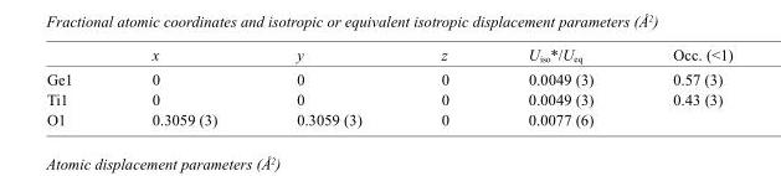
<table><thead><tr><td></td><td>x</td><td>y</td><td>z</td><td>U<sub>iso</sub>*/U<sub>eq</sub></td><td>Occ. (&lt;1)</td></tr></thead><tbody><tr><td>Ge1</td><td>0</td><td>0</td><td>0</td><td>0.0049 (3)</td><td>0.57 (3)</td></tr><tr><td>Ti1</td><td>0</td><td>0</td><td>0</td><td>0.0049 (3)</td><td>0.43 (3)</td></tr><tr><td>O1</td><td>0.3059 (3)</td><td>0.3059 (3)</td><td>0</td><td>0.0077 (6)</td><td></td></tr></tbody></table>